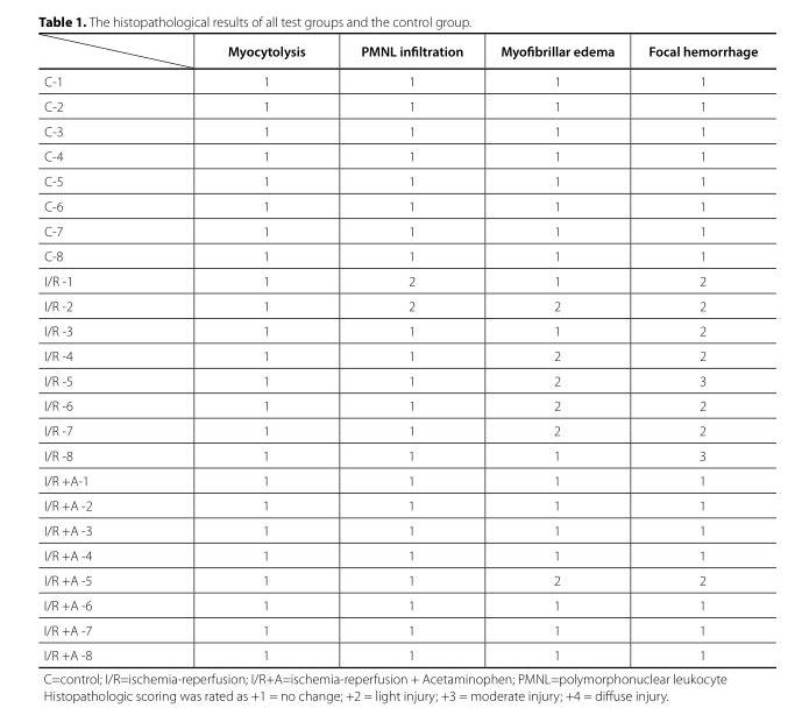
<table><thead><tr><td></td><td>Myocytolysis</td><td>PMNL infiltration</td><td>Myofibrillar edema</td><td>Focal hemorrhage</td></tr></thead><tbody><tr><td>C-1</td><td>1</td><td>1</td><td>1</td><td>1</td></tr><tr><td>C-2</td><td>1</td><td>1</td><td>1</td><td>1</td></tr><tr><td>C-3</td><td>1</td><td>1</td><td>1</td><td>1</td></tr><tr><td>C-4</td><td>1</td><td>1</td><td>1</td><td>1</td></tr><tr><td>C-5</td><td>1</td><td>1</td><td>1</td><td>1</td></tr><tr><td>C-6</td><td>1</td><td>1</td><td>1</td><td>1</td></tr><tr><td>C-7</td><td>1</td><td>1</td><td>1</td><td>1</td></tr><tr><td>C-8</td><td>1</td><td>1</td><td>1</td><td>1</td></tr><tr><td>I/R -1</td><td>1</td><td>2</td><td>1</td><td>2</td></tr><tr><td>I/R -2</td><td>1</td><td>2</td><td>2</td><td>2</td></tr><tr><td>I/R -3</td><td>1</td><td>1</td><td>1</td><td>2</td></tr><tr><td>I/R -4</td><td>1</td><td>1</td><td>2</td><td>2</td></tr><tr><td>I/R -5</td><td>1</td><td>1</td><td>2</td><td>3</td></tr><tr><td>I/R -6</td><td>1</td><td>1</td><td>2</td><td>2</td></tr><tr><td>I/R -7</td><td>1</td><td>1</td><td>2</td><td>2</td></tr><tr><td>I/R -8</td><td>1</td><td>1</td><td>1</td><td>3</td></tr><tr><td>I/R +A-1</td><td>1</td><td>1</td><td>1</td><td>1</td></tr><tr><td>I/R +A -2</td><td>1</td><td>1</td><td>1</td><td>1</td></tr><tr><td>I/R +A -3</td><td>1</td><td>1</td><td>1</td><td>1</td></tr><tr><td>I/R +A -4</td><td>1</td><td>1</td><td>1</td><td>1</td></tr><tr><td>I/R +A -5</td><td>1</td><td>1</td><td>2</td><td>2</td></tr><tr><td>I/R +A -6</td><td>1</td><td>1</td><td>1</td><td>1</td></tr><tr><td>I/R +A -7</td><td>1</td><td>1</td><td>1</td><td>1</td></tr><tr><td>I/R +A -8</td><td>1</td><td>1</td><td>1</td><td>1</td></tr></tbody></table>